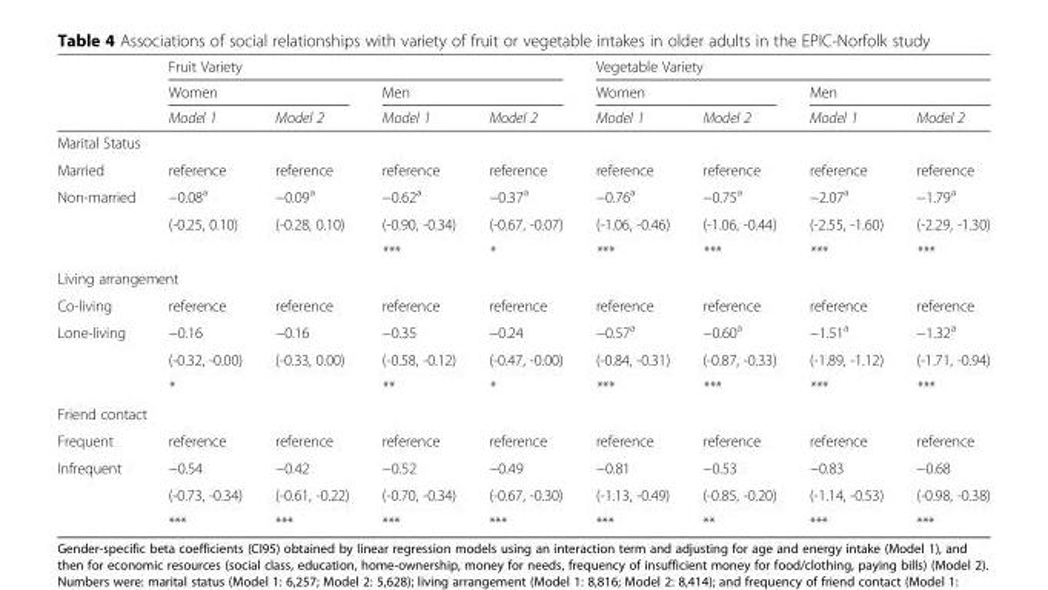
<table><thead><tr><td rowspan="3"></td><td colspan="4">Fruit Variety</td><td colspan="4">Vegetable Variety</td></tr><tr><td colspan="2">Women</td><td colspan="2">Men</td><td colspan="2">Women</td><td colspan="2">Men</td></tr><tr><td>Model 1</td><td>Model 2</td><td>Model 1</td><td>Model 2</td><td>Model 1</td><td>Model 2</td><td>Model 1</td><td>Model 2</td></tr></thead><tbody><tr><td colspan="9">Marital Status</td></tr><tr><td>Married</td><td>reference</td><td>reference</td><td>reference</td><td>reference</td><td>reference</td><td>reference</td><td>reference</td><td>reference</td></tr><tr><td rowspan="3">Non-married</td><td>−0.08<sup>a</sup></td><td>−0.09<sup>a</sup></td><td>−0.62<sup>a</sup></td><td>−0.37<sup>a</sup></td><td>−0.76<sup>a</sup></td><td>−0.75<sup>a</sup></td><td>−2.07<sup>a</sup></td><td>−1.79<sup>a</sup></td></tr><tr><td>(-0.25, 0.10)</td><td>(-0.28, 0.10)</td><td>(-0.90, -0.34)</td><td>(-0.67, -0.07)</td><td>(-1.06, -0.46)</td><td>(-1.06, -0.44)</td><td>(-2.55, -1.60)</td><td>(-2.29, -1.30)</td></tr><tr><td></td><td></td><td>***</td><td>*</td><td>***</td><td>***</td><td>***</td><td>***</td></tr><tr><td colspan="9">Living arrangement</td></tr><tr><td>Co-living</td><td>reference</td><td>reference</td><td>reference</td><td>reference</td><td>reference</td><td>reference</td><td>reference</td><td>reference</td></tr><tr><td rowspan="3">Lone-living</td><td>−0.16</td><td>−0.16</td><td>−0.35</td><td>−0.24</td><td>−0.57<sup>a</sup></td><td>−0.60<sup>a</sup></td><td>−1.51<sup>a</sup></td><td>−1.32<sup>a</sup></td></tr><tr><td>(-0.32, -0.00)</td><td>(-0.33, 0.00)</td><td>(-0.58, -0.12)</td><td>(-0.47, -0.00)</td><td>(-0.84, -0.31)</td><td>(-0.87, -0.33)</td><td>(-1.89, -1.12)</td><td>(-1.71, -0.94)</td></tr><tr><td>*</td><td></td><td>**</td><td>*</td><td>***</td><td>***</td><td>***</td><td>***</td></tr><tr><td colspan="9">Friend contact</td></tr><tr><td>Frequent</td><td>reference</td><td>reference</td><td>reference</td><td>reference</td><td>reference</td><td>reference</td><td>reference</td><td>reference</td></tr><tr><td rowspan="3">Infrequent</td><td>−0.54</td><td>−0.42</td><td>−0.52</td><td>−0.49</td><td>−0.81</td><td>−0.53</td><td>−0.83</td><td>−0.68</td></tr><tr><td>(-0.73, -0.34)</td><td>(-0.61, -0.22)</td><td>(-0.70, -0.34)</td><td>(-0.67, -0.30)</td><td>(-1.13, -0.49)</td><td>(-0.85, -0.20)</td><td>(-1.14, -0.53)</td><td>(-0.98, -0.38)</td></tr><tr><td>***</td><td>***</td><td>***</td><td>***</td><td>***</td><td>**</td><td>***</td><td>***</td></tr></tbody></table>